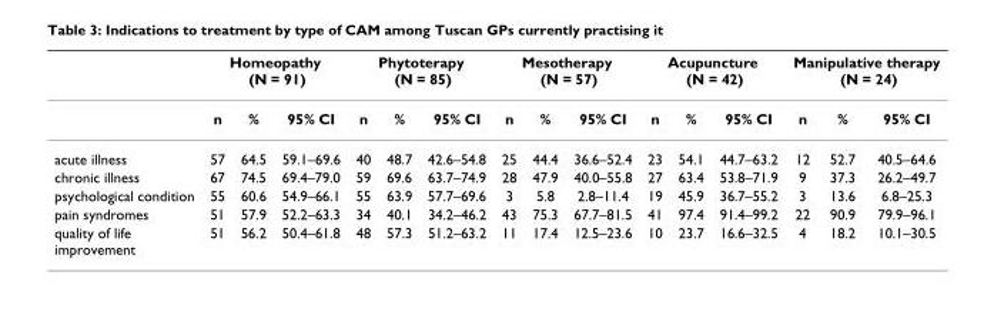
<table><thead><tr><td rowspan="2"></td><td colspan="3">Homeopathy (N = 91)</td><td colspan="3">Phytoterapy (N = 85)</td><td colspan="3">Mesotherapy (N = 57)</td><td colspan="3">Acupuncture (N = 42)</td><td colspan="3">Manipulative therapy (N = 24)</td></tr><tr><td>n</td><td>%</td><td>95% CI</td><td>n</td><td>%</td><td>95% CI</td><td>n</td><td>%</td><td>95% CI</td><td>n</td><td>%</td><td>95% CI</td><td>n</td><td>%</td><td>95% CI</td></tr></thead><tbody><tr><td>acute illness</td><td>57</td><td>64.5</td><td>59.1–69.6</td><td>40</td><td>48.7</td><td>42.6–54.8</td><td>25</td><td>44.4</td><td>36.6–52.4</td><td>23</td><td>54.1</td><td>44.7–63.2</td><td>12</td><td>52.7</td><td>40.5–64.6</td></tr><tr><td>chronic illness</td><td>67</td><td>74.5</td><td>69.4–79.0</td><td>59</td><td>69.6</td><td>63.7–74.9</td><td>28</td><td>47.9</td><td>40.0–55.8</td><td>27</td><td>63.4</td><td>53.8–71.9</td><td>9</td><td>37.3</td><td>26.2–49.7</td></tr><tr><td>psychological condition</td><td>55</td><td>60.6</td><td>54.9–66.1</td><td>55</td><td>63.9</td><td>57.7–69.6</td><td>3</td><td>5.8</td><td>2.8–11.4</td><td>19</td><td>45.9</td><td>36.7–55.2</td><td>3</td><td>13.6</td><td>6.8–25.3</td></tr><tr><td>pain syndromes</td><td>51</td><td>57.9</td><td>52.2–63.3</td><td>34</td><td>40.1</td><td>34.2–46.2</td><td>43</td><td>75.3</td><td>67.7–81.5</td><td>41</td><td>97.4</td><td>91.4–99.2</td><td>22</td><td>90.9</td><td>79.9–96.1</td></tr><tr><td>quality of life improvement</td><td>51</td><td>56.2</td><td>50.4–61.8</td><td>48</td><td>57.3</td><td>51.2–63.2</td><td>11</td><td>17.4</td><td>12.5–23.6</td><td>10</td><td>23.7</td><td>16.6–32.5</td><td>4</td><td>18.2</td><td>10.1–30.5</td></tr></tbody></table>